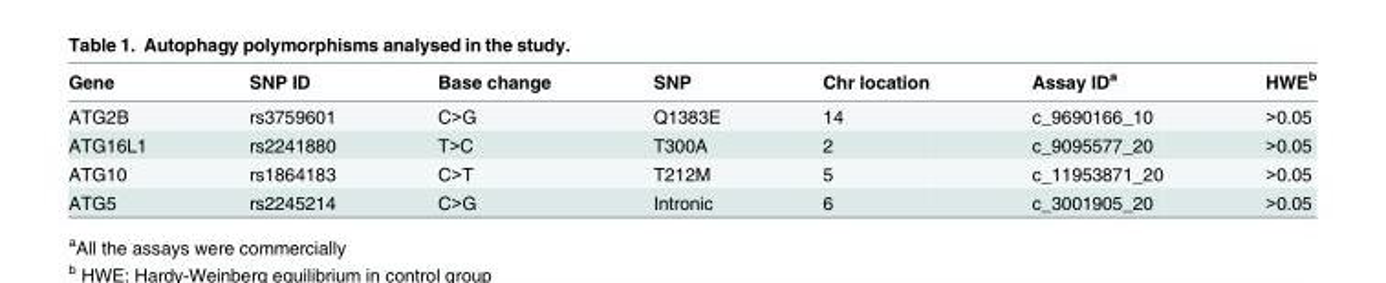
<table><thead><tr><td>Gene</td><td>SNP ID</td><td>Base change</td><td>SNP</td><td>Chr location</td><td>Assay ID<sup>a</sup></td><td>HWE<sup>b</sup></td></tr></thead><tbody><tr><td>ATG2B</td><td>rs3759601</td><td>C&gt;G</td><td>Q1383E</td><td>14</td><td>c_9690166_10</td><td>&gt;0.05</td></tr><tr><td>ATG16L1</td><td>rs2241880</td><td>T&gt;C</td><td>T300A</td><td>2</td><td>c_9095577_20</td><td>&gt;0.05</td></tr><tr><td>ATG10</td><td>rs1864183</td><td>C&gt;T</td><td>T212M</td><td>5</td><td>c_11953871_20</td><td>&gt;0.05</td></tr><tr><td>ATG5</td><td>rs2245214</td><td>C&gt;G</td><td>Intronic</td><td>6</td><td>c_3001905_20</td><td>&gt;0.05</td></tr></tbody></table>